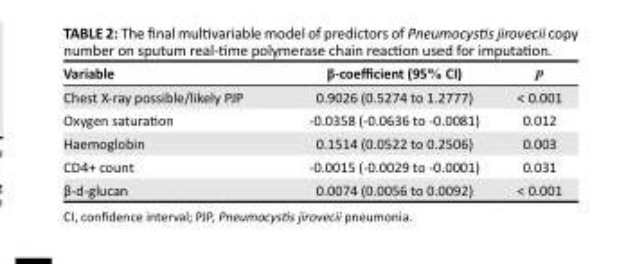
<table><thead><tr><td>Variable</td><td>β-coefficient (95% CI)</td><td>p</td></tr></thead><tbody><tr><td>Chest X-ray possible/likely PJP</td><td>0.9026 (0.5274 to 1.2777)</td><td>&lt; 0.001</td></tr><tr><td>Oxygen saturation</td><td>-0.0358 (-0.0636 to -0.0081)</td><td>0.012</td></tr><tr><td>Haemoglobin</td><td>0.1514 (0.0522 to 0.2506)</td><td>0.003</td></tr><tr><td>CD4+ count</td><td>-0.0015 (-0.0029 to -0.0001)</td><td>0.031</td></tr><tr><td>β-d-glucan</td><td>0.0074 (0.0056 to 0.0092)</td><td>&lt; 0.001</td></tr></tbody></table>